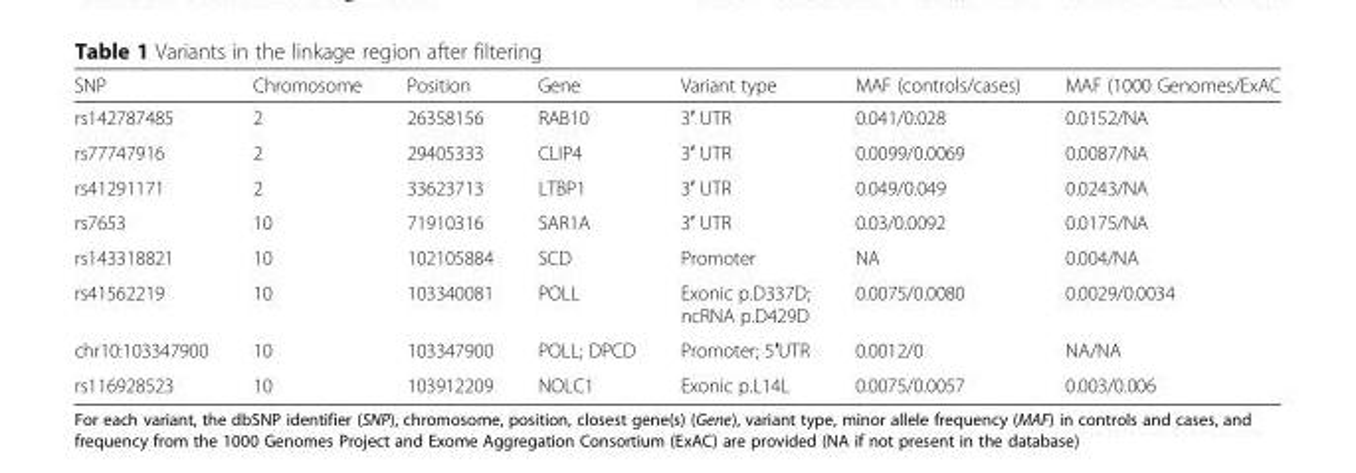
<table><thead><tr><td>SNP</td><td>Chromosome</td><td>Position</td><td>Gene</td><td>Variant type</td><td>MAF (controls/cases)</td><td>MAF (1000 Genomes/ExAC</td></tr></thead><tbody><tr><td>rs142787485</td><td>2</td><td>26358156</td><td>RAB10</td><td>3′ UTR</td><td>0.041/0.028</td><td>0.0152/NA</td></tr><tr><td>rs77747916</td><td>2</td><td>29405333</td><td>CLIP4</td><td>3′ UTR</td><td>0.0099/0.0069</td><td>0.0087/NA</td></tr><tr><td>rs41291171</td><td>2</td><td>33623713</td><td>LTBP1</td><td>3′ UTR</td><td>0.049/0.049</td><td>0.0243/NA</td></tr><tr><td>rs7653</td><td>10</td><td>71910316</td><td>SAR1A</td><td>3′ UTR</td><td>0.03/0.0092</td><td>0.0175/NA</td></tr><tr><td>rs143318821</td><td>10</td><td>102105884</td><td>SCD</td><td>Promoter</td><td>NA</td><td>0.004/NA</td></tr><tr><td>rs41562219</td><td>10</td><td>103340081</td><td>POLL</td><td>Exonic p.D337D; ncRNA p.D429D</td><td>0.0075/0.0080</td><td>0.0029/0.0034</td></tr><tr><td>chr10:103347900</td><td>10</td><td>103347900</td><td>POLL; DPCD</td><td>Promoter; 5′UTR</td><td>0.0012/0</td><td>NA/NA</td></tr><tr><td>rs116928523</td><td>10</td><td>103912209</td><td>NOLC1</td><td>Exonic p.L14L</td><td>0.0075/0.0057</td><td>0.003/0.006</td></tr></tbody></table>